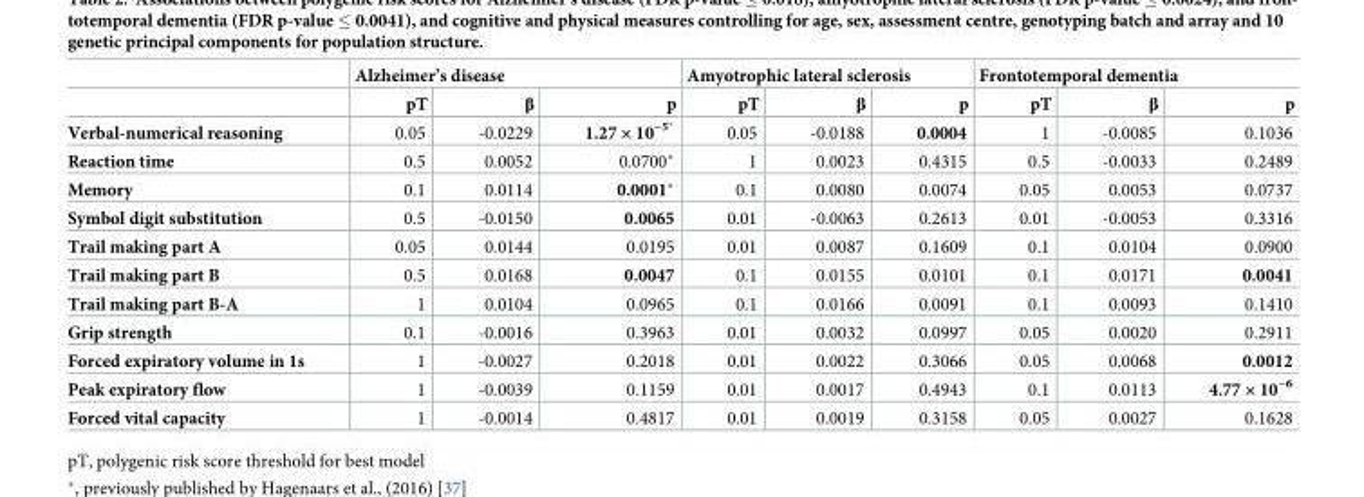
<table><thead><tr><td rowspan="2"></td><td colspan="3">Alzheimer’s disease</td><td colspan="3">Amyotrophic lateral sclerosis</td><td colspan="3">Frontotemporal dementia</td></tr><tr><td>pT</td><td>β</td><td>p</td><td>pT</td><td>β</td><td>p</td><td>pT</td><td>β</td><td>p</td></tr></thead><tbody><tr><td>Verbal-numerical reasoning</td><td>0.05</td><td>-0.0229</td><td>1.27 × 10<sup>−5*</sup></td><td>0.05</td><td>-0.0188</td><td>0.0004</td><td>1</td><td>-0.0085</td><td>0.1036</td></tr><tr><td>Reaction time</td><td>0.5</td><td>0.0052</td><td>0.0700*</td><td>1</td><td>0.0023</td><td>0.4315</td><td>0.5</td><td>-0.0033</td><td>0.2489</td></tr><tr><td>Memory</td><td>0.1</td><td>0.0114</td><td>0.0001*</td><td>0.1</td><td>0.0080</td><td>0.0074</td><td>0.05</td><td>0.0053</td><td>0.0737</td></tr><tr><td>Symbol digit substitution</td><td>0.5</td><td>-0.0150</td><td>0.0065</td><td>0.01</td><td>-0.0063</td><td>0.2613</td><td>0.01</td><td>-0.0053</td><td>0.3316</td></tr><tr><td>Trail making part A</td><td>0.05</td><td>0.0144</td><td>0.0195</td><td>0.01</td><td>0.0087</td><td>0.1609</td><td>0.1</td><td>0.0104</td><td>0.0900</td></tr><tr><td>Trail making part B</td><td>0.5</td><td>0.0168</td><td>0.0047</td><td>0.1</td><td>0.0155</td><td>0.0101</td><td>0.1</td><td>0.0171</td><td>0.0041</td></tr><tr><td>Trail making part B-A</td><td>1</td><td>0.0104</td><td>0.0965</td><td>0.1</td><td>0.0166</td><td>0.0091</td><td>0.1</td><td>0.0093</td><td>0.1410</td></tr><tr><td>Grip strength</td><td>0.1</td><td>-0.0016</td><td>0.3963</td><td>0.01</td><td>0.0032</td><td>0.0997</td><td>0.05</td><td>0.0020</td><td>0.2911</td></tr><tr><td>Forced expiratory volume in 1s</td><td>1</td><td>-0.0027</td><td>0.2018</td><td>0.01</td><td>0.0022</td><td>0.3066</td><td>0.05</td><td>0.0068</td><td>0.0012</td></tr><tr><td>Peak expiratory flow</td><td>1</td><td>-0.0039</td><td>0.1159</td><td>0.01</td><td>0.0017</td><td>0.4943</td><td>0.1</td><td>0.0113</td><td>4.77 × 10<sup>−6</sup></td></tr><tr><td>Forced vital capacity</td><td>1</td><td>-0.0014</td><td>0.4817</td><td>0.01</td><td>0.0019</td><td>0.3158</td><td>0.05</td><td>0.0027</td><td>0.1628</td></tr></tbody></table>